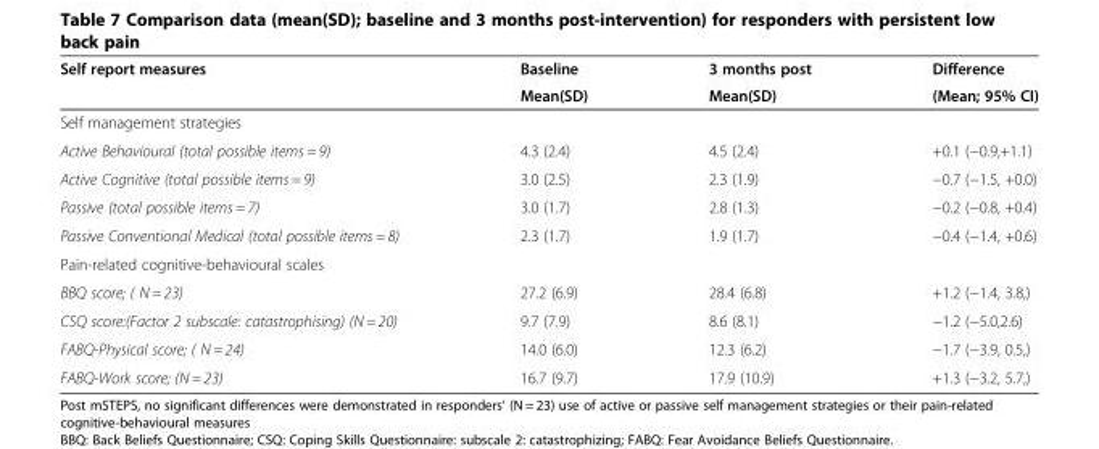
<table><thead><tr><td rowspan="2">Self report measures</td><td rowspan="2">Baseline Mean(SD)</td><td rowspan="2">3 months post Mean(SD)</td><td rowspan="2">Difference (Mean; 95% CI)</td></tr><tr></tr></thead><tbody><tr><td colspan="4">Self management strategies</td></tr><tr><td>Active Behavioural (total possible items = 9)</td><td>4.3 (2.4)</td><td>4.5 (2.4)</td><td>+0.1 (−0.9,+1.1)</td></tr><tr><td>Active Cognitive (total possible items = 9)</td><td>3.0 (2.5)</td><td>2.3 (1.9)</td><td>−0.7 (−1.5, +0.0)</td></tr><tr><td>Passive (total possible items = 7)</td><td>3.0 (1.7)</td><td>2.8 (1.3)</td><td>−0.2 (−0.8, +0.4)</td></tr><tr><td>Passive Conventional Medical (total possible items = 8)</td><td>2.3 (1.7)</td><td>1.9 (1.7)</td><td>−0.4 (−1.4, +0.6)</td></tr><tr><td colspan="4">Pain-related cognitive-behavioural scales</td></tr><tr><td>BBQ score; ( N = 23)</td><td>27.2 (6.9)</td><td>28.4 (6.8)</td><td>+1.2 (−1.4, 3.8,)</td></tr><tr><td>CSQ score:(Factor 2 subscale: catastrophising) (N = 20)</td><td>9.7 (7.9)</td><td>8.6 (8.1)</td><td>−1.2 (−5.0,2.6)</td></tr><tr><td>FABQ-Physical score; ( N = 24)</td><td>14.0 (6.0)</td><td>12.3 (6.2)</td><td>−1.7 (−3.9, 0.5,)</td></tr><tr><td>FABQ-Work score; (N = 23)</td><td>16.7 (9.7)</td><td>17.9 (10.9)</td><td>+1.3 (−3.2, 5.7,)</td></tr></tbody></table>